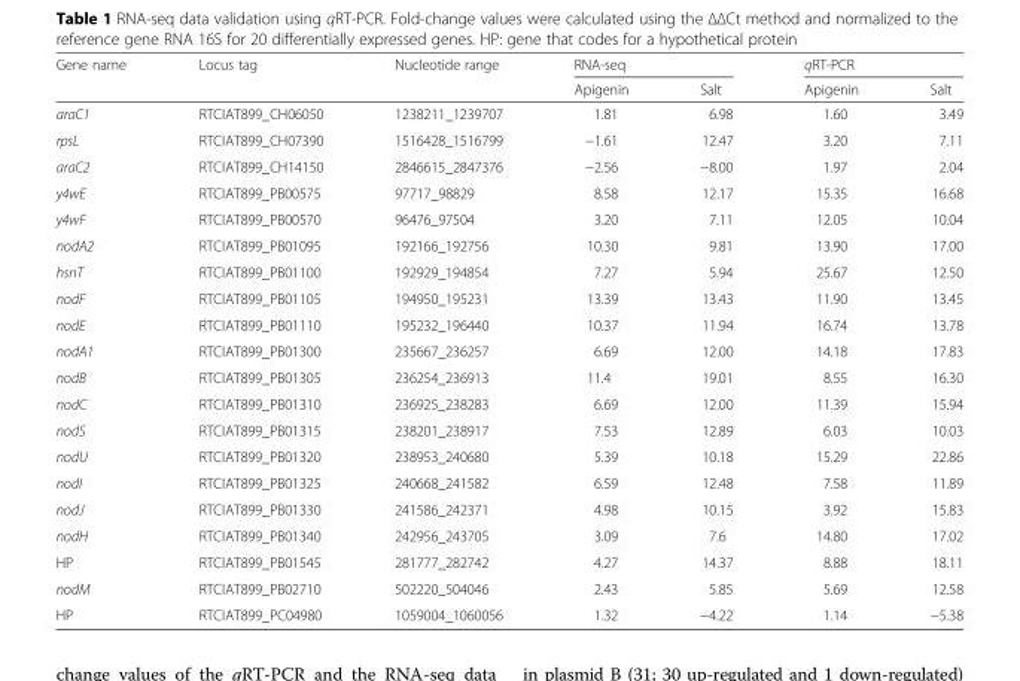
<table><thead><tr><td rowspan="2">Gene name</td><td rowspan="2">Locus tag</td><td rowspan="2">Nucleotide range</td><td colspan="2">RNA-seq</td><td colspan="2">qRT-PCR</td></tr><tr><td>Apigenin</td><td>Salt</td><td>Apigenin</td><td>Salt</td></tr></thead><tbody><tr><td>araC1</td><td>RTCIAT899_CH06050</td><td>1238211_1239707</td><td>1.81</td><td>6.98</td><td>1.60</td><td>3.49</td></tr><tr><td>rpsL</td><td>RTCIAT899_CH07390</td><td>1516428_1516799</td><td>−1.61</td><td>12.47</td><td>3.20</td><td>7.11</td></tr><tr><td>araC2</td><td>RTCIAT899_CH14150</td><td>2846615_2847376</td><td>−2.56</td><td>−8.00</td><td>1.97</td><td>2.04</td></tr><tr><td>y4wE</td><td>RTCIAT899_PB00575</td><td>97717_98829</td><td>8.58</td><td>12.17</td><td>15.35</td><td>16.68</td></tr><tr><td>y4wF</td><td>RTCIAT899_PB00570</td><td>96476_97504</td><td>3.20</td><td>7.11</td><td>12.05</td><td>10.04</td></tr><tr><td>nodA2</td><td>RTCIAT899_PB01095</td><td>192166_192756</td><td>10.30</td><td>9.81</td><td>13.90</td><td>17.00</td></tr><tr><td>hsnT</td><td>RTCIAT899_PB01100</td><td>192929_194854</td><td>7.27</td><td>5.94</td><td>25.67</td><td>12.50</td></tr><tr><td>nodF</td><td>RTCIAT899_PB01105</td><td>194950_195231</td><td>13.39</td><td>13.43</td><td>11.90</td><td>13.45</td></tr><tr><td>nodE</td><td>RTCIAT899_PB01110</td><td>195232_196440</td><td>10.37</td><td>11.94</td><td>16.74</td><td>13.78</td></tr><tr><td>nodA1</td><td>RTCIAT899_PB01300</td><td>235667_236257</td><td>6.69</td><td>12.00</td><td>14.18</td><td>17.83</td></tr><tr><td>nodB</td><td>RTCIAT899_PB01305</td><td>236254_236913</td><td>11.4</td><td>19.01</td><td>8.55</td><td>16.30</td></tr><tr><td>nodC</td><td>RTCIAT899_PB01310</td><td>236925_238283</td><td>6.69</td><td>12.00</td><td>11.39</td><td>15.94</td></tr><tr><td>nodS</td><td>RTCIAT899_PB01315</td><td>238201_238917</td><td>7.53</td><td>12.89</td><td>6.03</td><td>10.03</td></tr><tr><td>nodU</td><td>RTCIAT899_PB01320</td><td>238953_240680</td><td>5.39</td><td>10.18</td><td>15.29</td><td>22.86</td></tr><tr><td>nodI</td><td>RTCIAT899_PB01325</td><td>240668_241582</td><td>6.59</td><td>12.48</td><td>7.58</td><td>11.89</td></tr><tr><td>nodJ</td><td>RTCIAT899_PB01330</td><td>241586_242371</td><td>4.98</td><td>10.15</td><td>3.92</td><td>15.83</td></tr><tr><td>nodH</td><td>RTCIAT899_PB01340</td><td>242956_243705</td><td>3.09</td><td>7.6</td><td>14.80</td><td>17.02</td></tr><tr><td>HP</td><td>RTCIAT899_PB01545</td><td>281777_282742</td><td>4.27</td><td>14.37</td><td>8.88</td><td>18.11</td></tr><tr><td>nodM</td><td>RTCIAT899_PB02710</td><td>502220_504046</td><td>2.43</td><td>5.85</td><td>5.69</td><td>12.58</td></tr><tr><td>HP</td><td>RTCIAT899_PC04980</td><td>1059004_1060056</td><td>1.32</td><td>−4.22</td><td>1.14</td><td>−5.38</td></tr></tbody></table>